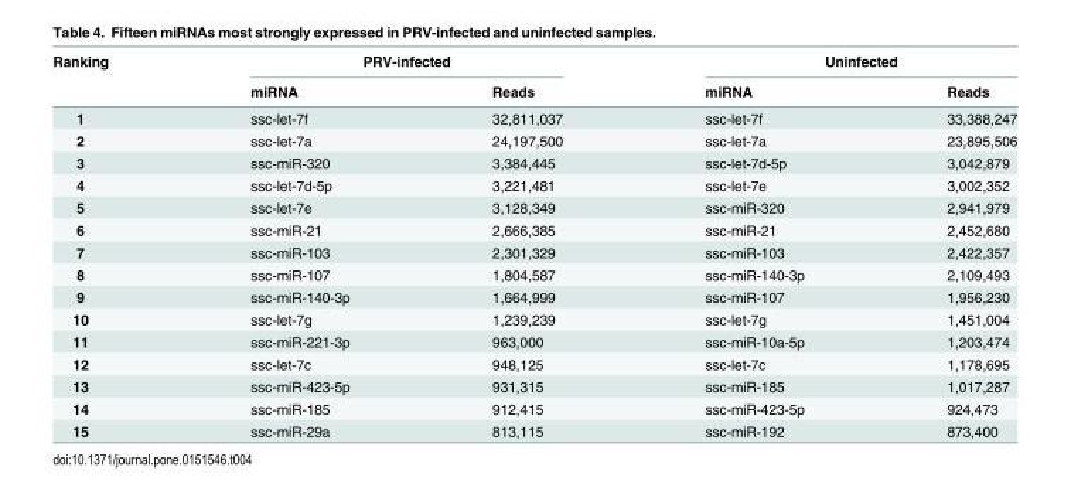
<table><thead><tr><td rowspan="2">Ranking</td><td colspan="2">PRV-infected</td><td colspan="2">Uninfected</td></tr><tr><td>miRNA</td><td>Reads</td><td>miRNA</td><td>Reads</td></tr></thead><tbody><tr><td>1</td><td>ssc-let-7f</td><td>32,811,037</td><td>ssc-let-7f</td><td>33,388,247</td></tr><tr><td>2</td><td>ssc-let-7a</td><td>24,197,500</td><td>ssc-let-7a</td><td>23,895,506</td></tr><tr><td>3</td><td>ssc-miR-320</td><td>3,384,445</td><td>ssc-let-7d-5p</td><td>3,042,879</td></tr><tr><td>4</td><td>ssc-let-7d-5p</td><td>3,221,481</td><td>ssc-let-7e</td><td>3,002,352</td></tr><tr><td>5</td><td>ssc-let-7e</td><td>3,128,349</td><td>ssc-miR-320</td><td>2,941,979</td></tr><tr><td>6</td><td>ssc-miR-21</td><td>2,666,385</td><td>ssc-miR-21</td><td>2,452,680</td></tr><tr><td>7</td><td>ssc-miR-103</td><td>2,301,329</td><td>ssc-miR-103</td><td>2,422,357</td></tr><tr><td>8</td><td>ssc-miR-107</td><td>1,804,587</td><td>ssc-miR-140-3p</td><td>2,109,493</td></tr><tr><td>9</td><td>ssc-miR-140-3p</td><td>1,664,999</td><td>ssc-miR-107</td><td>1,956,230</td></tr><tr><td>10</td><td>ssc-let-7g</td><td>1,239,239</td><td>ssc-let-7g</td><td>1,451,004</td></tr><tr><td>11</td><td>ssc-miR-221-3p</td><td>963,000</td><td>ssc-miR-10a-5p</td><td>1,203,474</td></tr><tr><td>12</td><td>ssc-let-7c</td><td>948,125</td><td>ssc-let-7c</td><td>1,178,695</td></tr><tr><td>13</td><td>ssc-miR-423-5p</td><td>931,315</td><td>ssc-miR-185</td><td>1,017,287</td></tr><tr><td>14</td><td>ssc-miR-185</td><td>912,415</td><td>ssc-miR-423-5p</td><td>924,473</td></tr><tr><td>15</td><td>ssc-miR-29a</td><td>813,115</td><td>ssc-miR-192</td><td>873,400</td></tr></tbody></table>